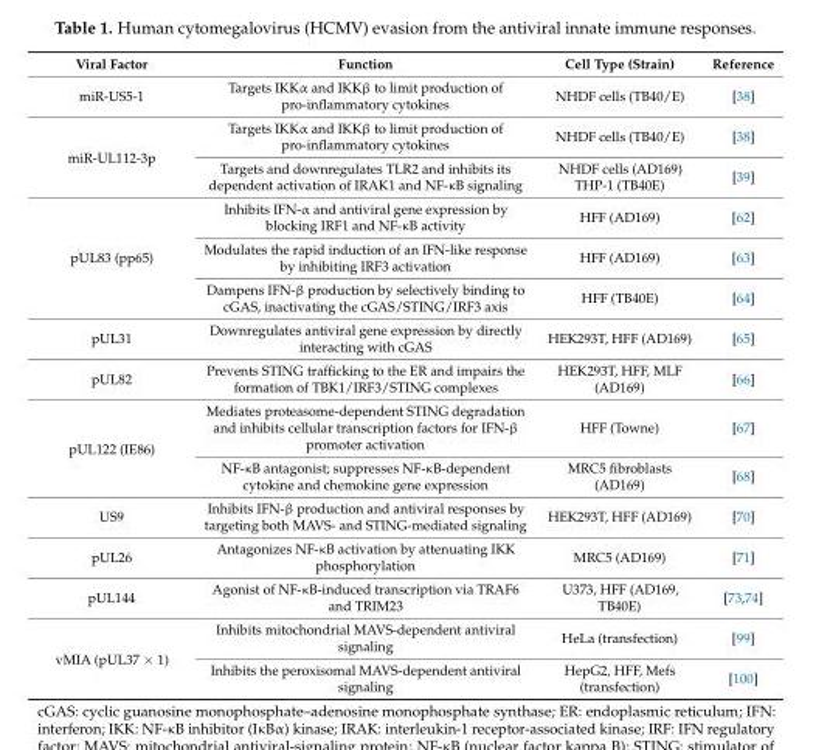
<table><thead><tr><td>Viral Factor</td><td>Function</td><td>Cell Type (Strain)</td><td>Reference</td></tr></thead><tbody><tr><td>miR-US5-1</td><td>Targets IKKα and IKKβ to limit production of pro-inflammatory cytokines</td><td>NHDF cells (TB40/E)</td><td>[38]</td></tr><tr><td rowspan="2">miR-UL112-3p</td><td>Targets IKKα and IKKβ to limit production of pro-inflammatory cytokines</td><td>NHDF cells (TB40/E)</td><td>[38]</td></tr><tr><td>Targets and downregulates TLR2 and inhibits its dependent activation of IRAK1 and NF-κB signaling</td><td>NHDF cells (AD169) THP-1 (TB40E)</td><td>[39]</td></tr><tr><td rowspan="3">pUL83 (pp65)</td><td>Inhibits IFN-α and antiviral gene expression by blocking IRF1 and NF-κB activity</td><td>HFF (AD169)</td><td>[62]</td></tr><tr><td>Modulates the rapid induction of an IFN-like response by inhibiting IRF3 activation</td><td>HFF (AD169)</td><td>[63]</td></tr><tr><td>Dampens IFN-β production by selectively binding to cGAS, inactivating the cGAS/STING/IRF3 axis</td><td>HFF (TB40E)</td><td>[64]</td></tr><tr><td>pUL31</td><td>Downregulates antiviral gene expression by directly interacting with cGAS</td><td>HEK293T, HFF (AD169)</td><td>[65]</td></tr><tr><td>pUL82</td><td>Prevents STING trafficking to the ER and impairs the formation of TBK1/IRF3/STING complexes</td><td>HEK293T, HFF, MLF (AD169)</td><td>[66]</td></tr><tr><td rowspan="2">pUL122 (IE86)</td><td>Mediates proteasome-dependent STING degradation and inhibits cellular transcription factors for IFN-β promoter activation</td><td>HFF (Towne)</td><td>[67]</td></tr><tr><td>NF-κB antagonist; suppresses NF-κB-dependent cytokine and chemokine gene expression</td><td>MRC5 fibroblasts (AD169)</td><td>[68]</td></tr><tr><td>US9</td><td>Inhibits IFN-β production and antiviral responses by targeting both MAVS- and STING-mediated signaling</td><td>HEK293T, HFF (AD169)</td><td>[70]</td></tr><tr><td>pUL26</td><td>Antagonizes NF-κB activation by attenuating IKK phosphorylation</td><td>MRC5 (AD169)</td><td>[71]</td></tr><tr><td>pUL144</td><td>Agonist of NF-κB-induced transcription via TRAF6 and TRIM23</td><td>U373, HFF (AD169, TB40E)</td><td>[73,74]</td></tr><tr><td rowspan="2">vMIA (pUL37 × 1)</td><td>Inhibits mitochondrial MAVS-dependent antiviral signaling</td><td>HeLa (transfection)</td><td>[99]</td></tr><tr><td>Inhibits the peroxisomal MAVS-dependent antiviral signaling</td><td>HepG2, HFF, Mefs (transfection)</td><td>[100]</td></tr></tbody></table>